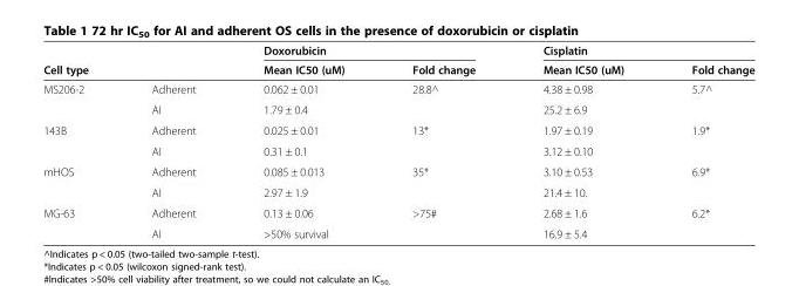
<table><thead><tr><td></td><td></td><td colspan="2">Doxorubicin</td><td colspan="2">Cisplatin</td></tr><tr><td colspan="2">Cell type</td><td>Mean IC50 (uM)</td><td>Fold change</td><td>Mean IC50 (uM)</td><td>Fold change</td></tr></thead><tbody><tr><td rowspan="2">MS206-2</td><td>Adherent</td><td>0.062 ± 0.01</td><td rowspan="2">28.8^</td><td>4.38 ± 0.98</td><td rowspan="2">5.7^</td></tr><tr><td>AI</td><td>1.79 ± 0.4</td><td>25.2 ± 6.9</td></tr><tr><td rowspan="2">143B</td><td>Adherent</td><td>0.025 ± 0.01</td><td rowspan="2">13*</td><td>1.97 ± 0.19</td><td rowspan="2">1.9*</td></tr><tr><td>AI</td><td>0.31 ± 0.1</td><td>3.12 ± 0.10</td></tr><tr><td rowspan="2">mHOS</td><td>Adherent</td><td>0.085 ± 0.013</td><td rowspan="2">35*</td><td>3.10 ± 0.53</td><td rowspan="2">6.9*</td></tr><tr><td>AI</td><td>2.97 ± 1.9</td><td>21.4 ± 10.</td></tr><tr><td rowspan="2">MG-63</td><td>Adherent</td><td>0.13 ± 0.06</td><td rowspan="2">&gt;75#</td><td>2.68 ± 1.6</td><td rowspan="2">6.2*</td></tr><tr><td>AI</td><td>&gt;50% survival</td><td>16.9 ± 5.4</td></tr></tbody></table>